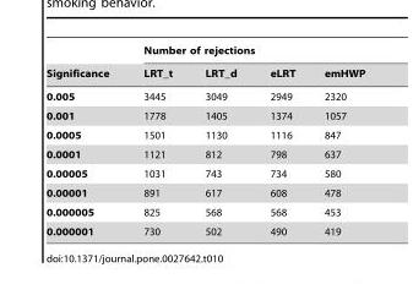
<table><thead><tr><td rowspan="2">Significance</td><td colspan="4">Number of rejections</td></tr><tr><td>LRT_t</td><td>LRT_d</td><td>eLRT</td><td>emHWP</td></tr></thead><tbody><tr><td>0.005</td><td>3445</td><td>3049</td><td>2949</td><td>2320</td></tr><tr><td>0.001</td><td>1778</td><td>1405</td><td>1374</td><td>1057</td></tr><tr><td>0.0005</td><td>1501</td><td>1130</td><td>1116</td><td>847</td></tr><tr><td>0.0001</td><td>1121</td><td>812</td><td>798</td><td>637</td></tr><tr><td>0.00005</td><td>1031</td><td>743</td><td>734</td><td>580</td></tr><tr><td>0.00001</td><td>891</td><td>617</td><td>608</td><td>478</td></tr><tr><td>0.000005</td><td>825</td><td>568</td><td>568</td><td>453</td></tr><tr><td>0.000001</td><td>730</td><td>502</td><td>490</td><td>419</td></tr></tbody></table>